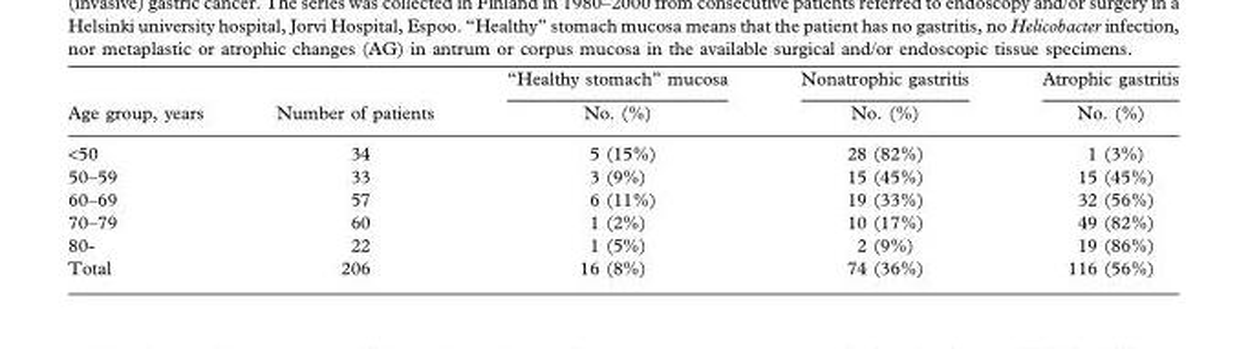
<table><thead><tr><td rowspan="2">Age group, years</td><td rowspan="2">Number of patients</td><td rowspan="2">“Healthy stomach” mucosa No. (%)</td><td rowspan="2">Nonatrophic gastritis No. (%)</td><td rowspan="2">Atrophic gastritis No. (%)</td></tr><tr></tr></thead><tbody><tr><td>&lt;50</td><td>34</td><td>5 (15%)</td><td>28 (82%)</td><td>1 (3%)</td></tr><tr><td>50–59</td><td>33</td><td>3 (9%)</td><td>15 (45%)</td><td>15 (45%)</td></tr><tr><td>60–69</td><td>57</td><td>6 (11%)</td><td>19 (33%)</td><td>32 (56%)</td></tr><tr><td>70–79</td><td>60</td><td>1 (2%)</td><td>10 (17%)</td><td>49 (82%)</td></tr><tr><td>80-</td><td>22</td><td>1 (5%)</td><td>2 (9%)</td><td>19 (86%)</td></tr><tr><td>Total</td><td>206</td><td>16 (8%)</td><td>74 (36%)</td><td>116 (56%)</td></tr></tbody></table>